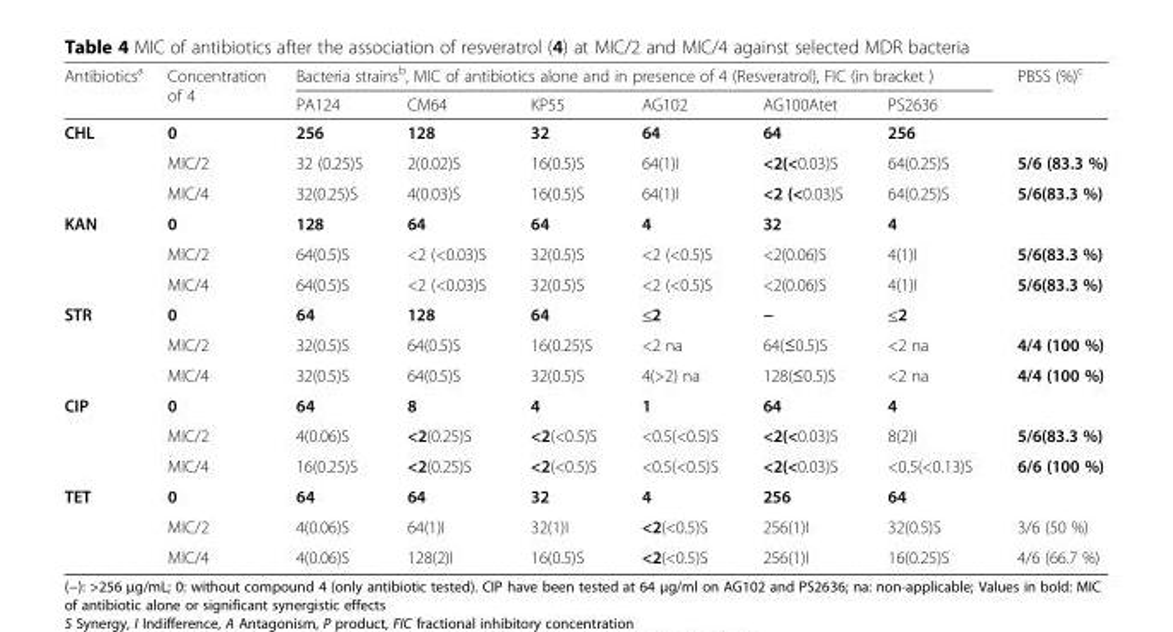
<table><thead><tr><td rowspan="2">Antibiotics<sup>a</sup></td><td rowspan="2">Concentration of 4</td><td colspan="6">Bacteria strains<sup>b</sup>, MIC of antibiotics alone and in presence of 4 (Resveratrol), FIC (in bracket )</td><td rowspan="2">PBSS (%)<sup>c</sup></td></tr><tr><td>PA124</td><td>CM64</td><td>KP55</td><td>AG102</td><td>AG100Atet</td><td>PS2636</td></tr></thead><tbody><tr><td rowspan="3">CHL</td><td>0</td><td>256</td><td>128</td><td>32</td><td>64</td><td>64</td><td>256</td><td></td></tr><tr><td>MIC/2</td><td>32 (0.25)S</td><td>2(0.02)S</td><td>16(0.5)S</td><td>64(1)I</td><td>&lt;2(&lt;0.03)S</td><td>64(0.25)S</td><td>5/6 (83.3 %)</td></tr><tr><td>MIC/4</td><td>32(0.25)S</td><td>4(0.03)S</td><td>16(0.5)S</td><td>64(1)I</td><td>&lt;2 (&lt;0.03)S</td><td>64(0.25)S</td><td>5/6(83.3 %)</td></tr><tr><td rowspan="3">KAN</td><td>0</td><td>128</td><td>64</td><td>64</td><td>4</td><td>32</td><td>4</td><td></td></tr><tr><td>MIC/2</td><td>64(0.5)S</td><td>&lt;2 (&lt;0.03)S</td><td>32(0.5)S</td><td>&lt;2 (&lt;0.5)S</td><td>&lt;2(0.06)S</td><td>4(1)I</td><td>5/6(83.3 %)</td></tr><tr><td>MIC/4</td><td>64(0.5)S</td><td>&lt;2 (&lt;0.03)S</td><td>32(0.5)S</td><td>&lt;2 (&lt;0.5)S</td><td>&lt;2(0.06)S</td><td>4(1)I</td><td>5/6(83.3 %)</td></tr><tr><td rowspan="3">STR</td><td>0</td><td>64</td><td>128</td><td>64</td><td>≤2</td><td>−</td><td>≤2</td><td></td></tr><tr><td>MIC/2</td><td>32(0.5)S</td><td>64(0.5)S</td><td>16(0.25)S</td><td>&lt;2 na</td><td>64(≤0.5)S</td><td>&lt;2 na</td><td>4/4 (100 %)</td></tr><tr><td>MIC/4</td><td>32(0.5)S</td><td>64(0.5)S</td><td>32(0.5)S</td><td>4(&gt;2) na</td><td>128(≤0.5)S</td><td>&lt;2 na</td><td>4/4 (100 %)</td></tr><tr><td rowspan="3">CIP</td><td>0</td><td>64</td><td>8</td><td>4</td><td>1</td><td>64</td><td>4</td><td></td></tr><tr><td>MIC/2</td><td>4(0.06)S</td><td>&lt;2(0.25)S</td><td>&lt;2(&lt;0.5)S</td><td>&lt;0.5(&lt;0.5)S</td><td>&lt;2(&lt;0.03)S</td><td>8(2)I</td><td>5/6(83.3 %)</td></tr><tr><td>MIC/4</td><td>16(0.25)S</td><td>&lt;2(0.25)S</td><td>&lt;2(&lt;0.5)S</td><td>&lt;0.5(&lt;0.5)S</td><td>&lt;2(&lt;0.03)S</td><td>&lt;0.5(&lt;0.13)S</td><td>6/6 (100 %)</td></tr><tr><td rowspan="3">TET</td><td>0</td><td>64</td><td>64</td><td>32</td><td>4</td><td>256</td><td>64</td><td></td></tr><tr><td>MIC/2</td><td>4(0.06)S</td><td>64(1)I</td><td>32(1)I</td><td>&lt;2(&lt;0.5)S</td><td>256(1)I</td><td>32(0.5)S</td><td>3/6 (50 %)</td></tr><tr><td>MIC/4</td><td>4(0.06)S</td><td>128(2)I</td><td>16(0.5)S</td><td>&lt;2(&lt;0.5)S</td><td>256(1)I</td><td>16(0.25)S</td><td>4/6 (66.7 %)</td></tr></tbody></table>